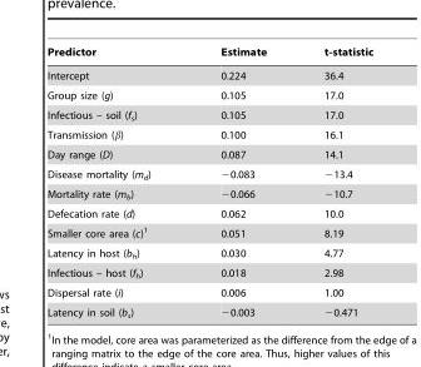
<table><thead><tr><td>Predictor</td><td>Estimate</td><td>t-statistic</td></tr></thead><tbody><tr><td>Intercept</td><td>0.224</td><td>36.4</td></tr><tr><td>Group size (g)</td><td>0.105</td><td>17.0</td></tr><tr><td>Infectious – soil (f<sub>s</sub>)</td><td>0.105</td><td>17.0</td></tr><tr><td>Transmission (β)</td><td>0.100</td><td>16.1</td></tr><tr><td>Day range (D)</td><td>0.087</td><td>14.1</td></tr><tr><td>Disease mortality (m<sub>d</sub>)</td><td>−0.083</td><td>−13.4</td></tr><tr><td>Mortality rate (m<sub>b</sub>)</td><td>−0.066</td><td>−10.7</td></tr><tr><td>Defecation rate (d)</td><td>0.062</td><td>10.0</td></tr><tr><td>Smaller core area (c)<sup>1</sup></td><td>0.051</td><td>8.19</td></tr><tr><td>Latency in host (b<sub>h</sub>)</td><td>0.030</td><td>4.77</td></tr><tr><td>Infectious – host (f<sub>h</sub>)</td><td>0.018</td><td>2.98</td></tr><tr><td>Dispersal rate (i)</td><td>0.006</td><td>1.00</td></tr><tr><td>Latency in soil (b<sub>s</sub>)</td><td>−0.003</td><td>−0.471</td></tr></tbody></table>